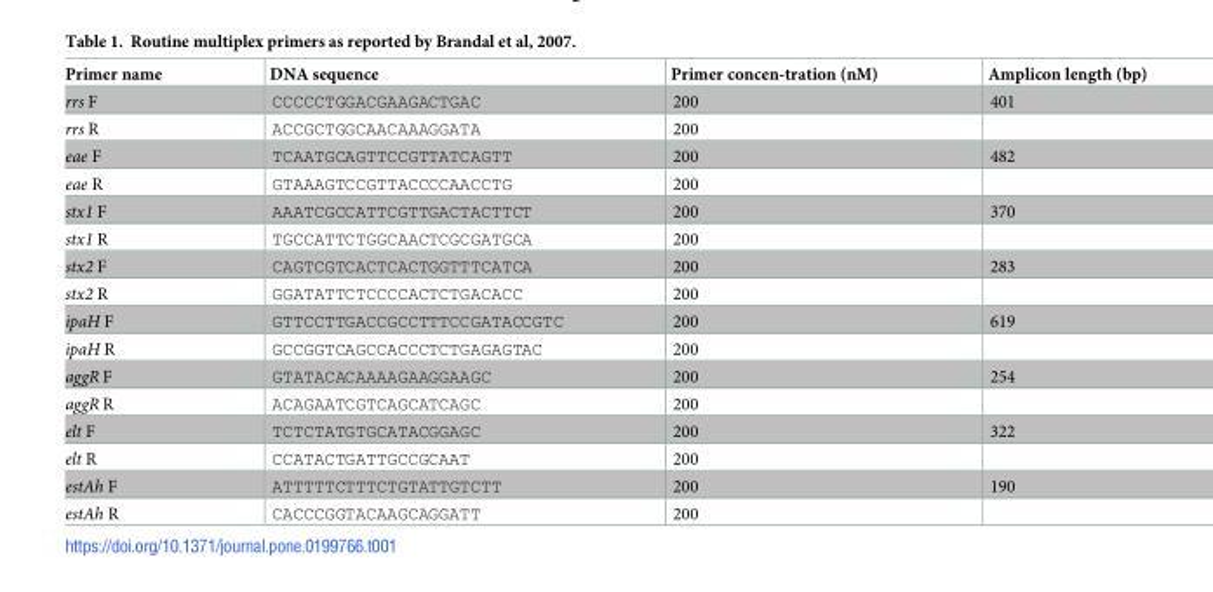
<table><thead><tr><td>Primer name</td><td>DNA sequence</td><td>Primer concen-tration (nM)</td><td>Amplicon length (bp)</td></tr></thead><tbody><tr><td>rrs F</td><td>CCCCCTGGACGAAGACTGAC</td><td>200</td><td>401</td></tr><tr><td>rrs R</td><td>ACCGCTGGCAACAAAGGATA</td><td>200</td><td></td></tr><tr><td>eae F</td><td>TCAATGCAGTTCCGTTATCAGTT</td><td>200</td><td>482</td></tr><tr><td>eae R</td><td>GTAAAGTCCGTTACCCCAACCTG</td><td>200</td><td></td></tr><tr><td>stx1 F</td><td>AAATCGCCATTCGTTGACTACTTCT</td><td>200</td><td>370</td></tr><tr><td>stx1 R</td><td>TGCCATTCTGGCAACTCGCGATGCA</td><td>200</td><td></td></tr><tr><td>stx2 F</td><td>CAGTCGTCACTCACTGGTTTCATCA</td><td>200</td><td>283</td></tr><tr><td>stx2 R</td><td>GGATATTCTCCCCACTCTGACACC</td><td>200</td><td></td></tr><tr><td>ipaH F</td><td>GTTCCTTGACCGCCTTTCCGATACCGTC</td><td>200</td><td>619</td></tr><tr><td>ipaH R</td><td>GCCGGTCAGCCACCCTCTGAGAGTAC</td><td>200</td><td></td></tr><tr><td>aggR F</td><td>GTATACACAAAAGAAGGAAGC</td><td>200</td><td>254</td></tr><tr><td>aggR R</td><td>ACAGAATCGTCAGCATCAGC</td><td>200</td><td></td></tr><tr><td>elt F</td><td>TCTCTATGTGCATACGGAGC</td><td>200</td><td>322</td></tr><tr><td>elt R</td><td>CCATACTGATTGCCGCAAT</td><td>200</td><td></td></tr><tr><td>estAh F</td><td>ATTTTTCTTTCTGTATTGTCTT</td><td>200</td><td>190</td></tr><tr><td>estAh R</td><td>CACCCGGTACAAGCAGGATT</td><td>200</td><td></td></tr></tbody></table>